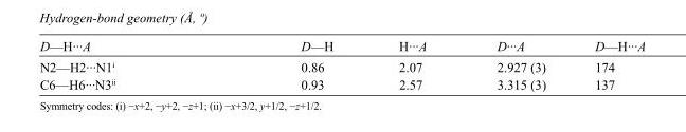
<table><tbody><tr><td>D—H···A</td><td>D—H</td><td>H···A</td><td>D···A</td><td>D—H···A</td></tr><tr><td>N2—H2···N1<sup>i</sup></td><td>0.86</td><td>2.07</td><td>2.927 (3)</td><td>174</td></tr><tr><td>C6—H6···N3<sup>ii</sup></td><td>0.93</td><td>2.57</td><td>3.315 (3)</td><td>137</td></tr></tbody></table>